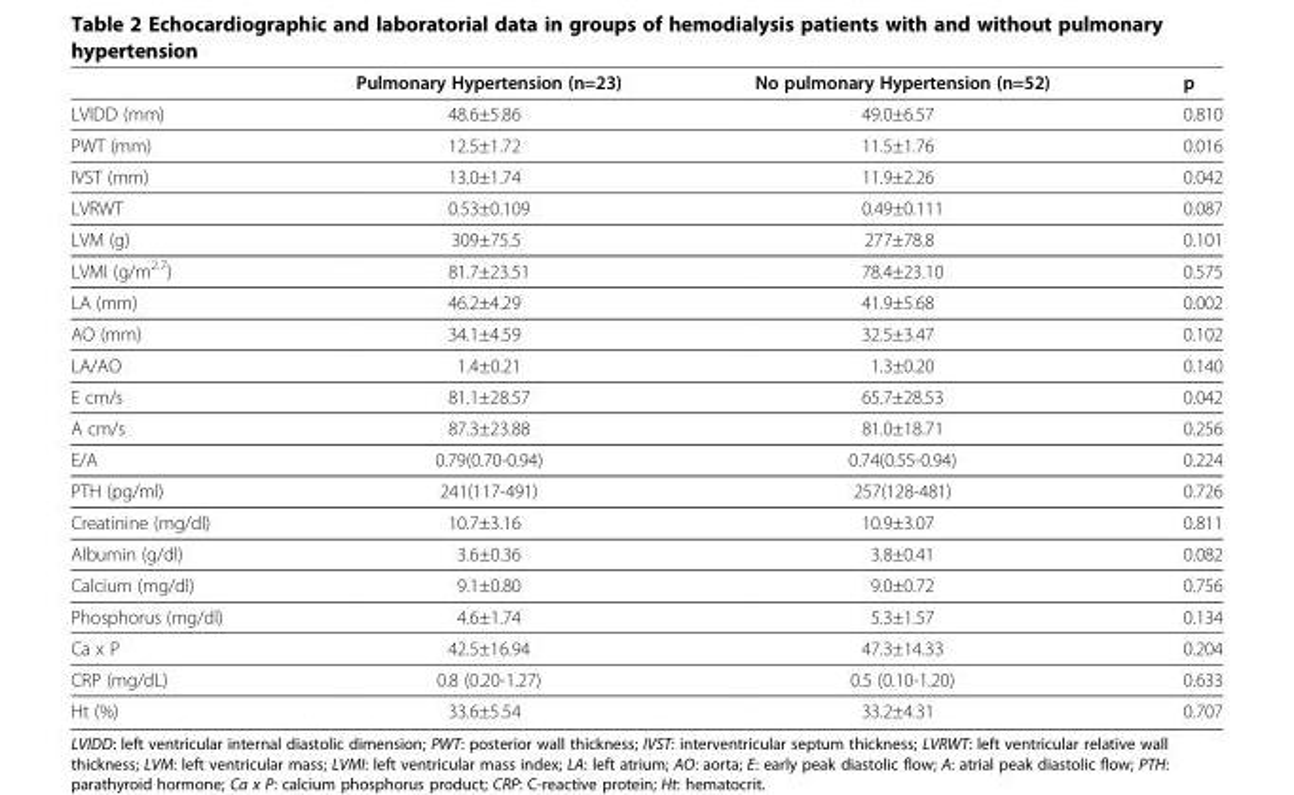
<table><thead><tr><td></td><td>Pulmonary Hypertension (n=23)</td><td>No pulmonary Hypertension (n=52)</td><td>p</td></tr></thead><tbody><tr><td>LVIDD (mm)</td><td>48.6±5.86</td><td>49.0±6.57</td><td>0.810</td></tr><tr><td>PWT (mm)</td><td>12.5±1.72</td><td>11.5±1.76</td><td>0.016</td></tr><tr><td>IVST (mm)</td><td>13.0±1.74</td><td>11.9±2.26</td><td>0.042</td></tr><tr><td>LVRWT</td><td>0.53±0.109</td><td>0.49±0.111</td><td>0.087</td></tr><tr><td>LVM (g)</td><td>309±75.5</td><td>277±78.8</td><td>0.101</td></tr><tr><td>LVMI (g/m<sup>2.7</sup>)</td><td>81.7±23.51</td><td>78.4±23.10</td><td>0.575</td></tr><tr><td>LA (mm)</td><td>46.2±4.29</td><td>41.9±5.68</td><td>0.002</td></tr><tr><td>AO (mm)</td><td>34.1±4.59</td><td>32.5±3.47</td><td>0.102</td></tr><tr><td>LA/AO</td><td>1.4±0.21</td><td>1.3±0.20</td><td>0.140</td></tr><tr><td>E cm/s</td><td>81.1±28.57</td><td>65.7±28.53</td><td>0.042</td></tr><tr><td>A cm/s</td><td>87.3±23.88</td><td>81.0±18.71</td><td>0.256</td></tr><tr><td>E/A</td><td>0.79(0.70-0.94)</td><td>0.74(0.55-0.94)</td><td>0.224</td></tr><tr><td>PTH (pg/ml)</td><td>241(117-491)</td><td>257(128-481)</td><td>0.726</td></tr><tr><td>Creatinine (mg/dl)</td><td>10.7±3.16</td><td>10.9±3.07</td><td>0.811</td></tr><tr><td>Albumin (g/dl)</td><td>3.6±0.36</td><td>3.8±0.41</td><td>0.082</td></tr><tr><td>Calcium (mg/dl)</td><td>9.1±0.80</td><td>9.0±0.72</td><td>0.756</td></tr><tr><td>Phosphorus (mg/dl)</td><td>4.6±1.74</td><td>5.3±1.57</td><td>0.134</td></tr><tr><td>Ca x P</td><td>42.5±16.94</td><td>47.3±14.33</td><td>0.204</td></tr><tr><td>CRP (mg/dL)</td><td>0.8 (0.20-1.27)</td><td>0.5 (0.10-1.20)</td><td>0.633</td></tr><tr><td>Ht (%)</td><td>33.6±5.54</td><td>33.2±4.31</td><td>0.707</td></tr></tbody></table>